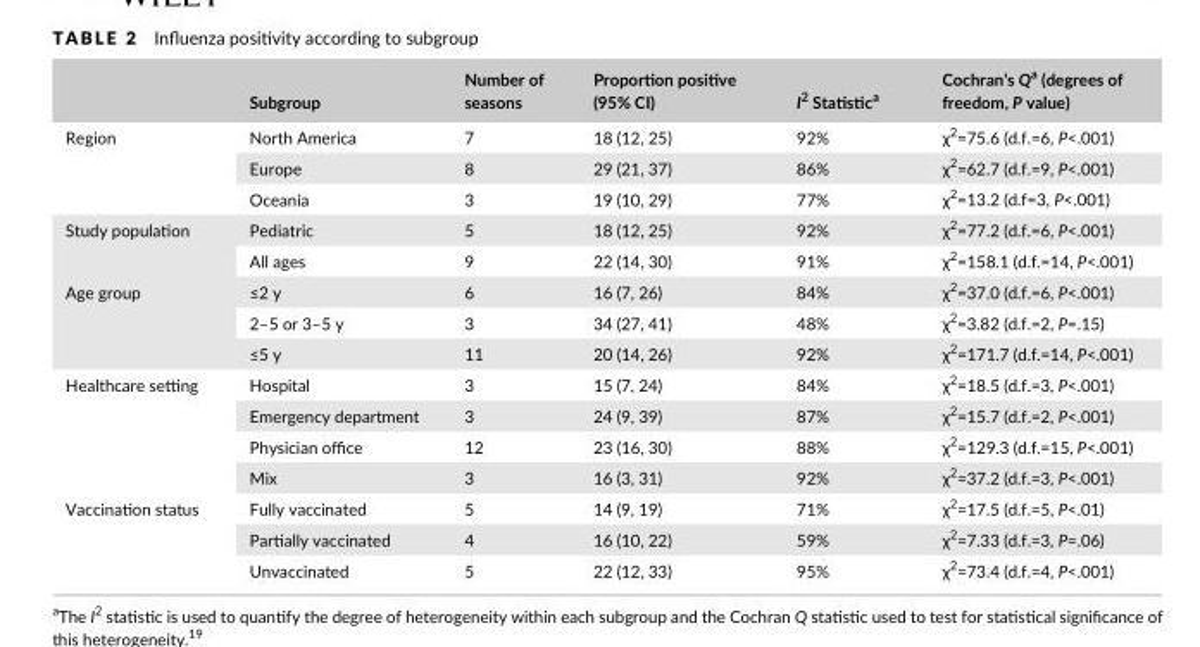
<table><thead><tr><td></td><td>Subgroup</td><td>Number of seasons</td><td>Proportion positive (95% CI)</td><td>I<sup>2</sup> Statistic<sup>a</sup></td><td>Cochran’s Qa (degrees of freedom, P value)</td></tr></thead><tbody><tr><td rowspan="3">Region</td><td>North America</td><td>7</td><td>18 (12, 25)</td><td>92%</td><td>χ<sup>2</sup>=75.6 (d.f.=6, P&lt;.001)</td></tr><tr><td>Europe</td><td>8</td><td>29 (21, 37)</td><td>86%</td><td>χ<sup>2</sup>=62.7 (d.f.=9, P&lt;.001)</td></tr><tr><td>Oceania</td><td>3</td><td>19 (10, 29)</td><td>77%</td><td>χ<sup>2</sup>=13.2 (d.f=3, P&lt;.001)</td></tr><tr><td rowspan="2">Study population</td><td>Pediatric</td><td>5</td><td>18 (12, 25)</td><td>92%</td><td>χ<sup>2</sup>=77.2 (d.f.=6, P&lt;.001)</td></tr><tr><td>All ages</td><td>9</td><td>22 (14, 30)</td><td>91%</td><td>χ<sup>2</sup>=158.1 (d.f.=14, P&lt;.001)</td></tr><tr><td rowspan="3">Age group</td><td>≤2 y</td><td>6</td><td>16 (7, 26)</td><td>84%</td><td>χ<sup>2</sup>=37.0 (d.f.=6, P&lt;.001)</td></tr><tr><td>2–5 or 3–5 y</td><td>3</td><td>34 (27, 41)</td><td>48%</td><td>χ<sup>2</sup>=3.82 (d.f.=2, P=.15)</td></tr><tr><td>≤5 y</td><td>11</td><td>20 (14, 26)</td><td>92%</td><td>χ<sup>2</sup>=171.7 (d.f.=14, P&lt;.001)</td></tr><tr><td rowspan="4">Healthcare setting</td><td>Hospital</td><td>3</td><td>15 (7, 24)</td><td>84%</td><td>χ<sup>2</sup>=18.5 (d.f.=3, P&lt;.001)</td></tr><tr><td>Emergency department</td><td>3</td><td>24 (9, 39)</td><td>87%</td><td>χ<sup>2</sup>=15.7 (d.f.=2, P&lt;.001)</td></tr><tr><td>Physician office</td><td>12</td><td>23 (16, 30)</td><td>88%</td><td>χ<sup>2</sup>=129.3 (d.f.=15, P&lt;.001)</td></tr><tr><td>Mix</td><td>3</td><td>16 (3, 31)</td><td>92%</td><td>χ<sup>2</sup>=37.2 (d.f.=3, P&lt;.001)</td></tr><tr><td rowspan="3">Vaccination status</td><td>Fully vaccinated</td><td>5</td><td>14 (9, 19)</td><td>71%</td><td>χ<sup>2</sup>=17.5 (d.f.=5, P&lt;.01)</td></tr><tr><td>Partially vaccinated</td><td>4</td><td>16 (10, 22)</td><td>59%</td><td>χ<sup>2</sup>=7.33 (d.f.=3, P=.06)</td></tr><tr><td>Unvaccinated</td><td>5</td><td>22 (12, 33)</td><td>95%</td><td>χ<sup>2</sup>=73.4 (d.f.=4, P&lt;.001)</td></tr></tbody></table>